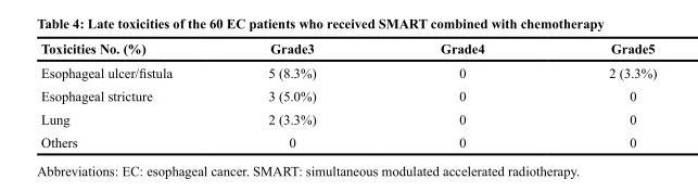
<table><thead><tr><td>Toxicities No. (%)</td><td>Grade3</td><td>Grade4</td><td>Grade5</td></tr></thead><tbody><tr><td>Esophageal ulcer/fistula</td><td>5 (8.3%)</td><td>0</td><td>2 (3.3%)</td></tr><tr><td>Esophageal stricture</td><td>3 (5.0%)</td><td>0</td><td>0</td></tr><tr><td>Lung</td><td>2 (3.3%)</td><td>0</td><td>0</td></tr><tr><td>Others</td><td>0</td><td>0</td><td>0</td></tr></tbody></table>